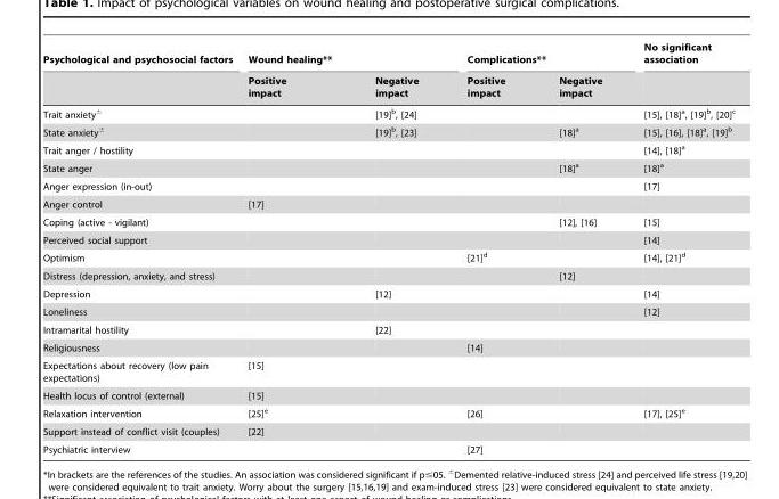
<table><thead><tr><td rowspan="2">Psychological and psychosocial factors</td><td colspan="2">Wound healing**</td><td colspan="2">Complications**</td><td rowspan="2">No significant association</td></tr><tr><td>Positive impact</td><td>Negative impact</td><td>Positive impact</td><td>Negative impact</td></tr></thead><tbody><tr><td>Trait anxiety<sup>±</sup></td><td></td><td>[19]b, [24]</td><td></td><td></td><td>[15], [18]a, [19]b, [20]c</td></tr><tr><td>State anxiety<sup>±</sup></td><td></td><td>[19]b, [23]</td><td></td><td>[18]a</td><td>[15], [16], [18]a, [19]b</td></tr><tr><td>Trait anger / hostility</td><td></td><td></td><td></td><td></td><td>[14], [18]a</td></tr><tr><td>State anger</td><td></td><td></td><td></td><td>[18]a</td><td>[18]a</td></tr><tr><td>Anger expression (in-out)</td><td></td><td></td><td></td><td></td><td>[17]</td></tr><tr><td>Anger control</td><td>[17]</td><td></td><td></td><td></td><td></td></tr><tr><td>Coping (active - vigilant)</td><td></td><td></td><td></td><td>[12], [16]</td><td>[15]</td></tr><tr><td>Perceived social support</td><td></td><td></td><td></td><td></td><td>[14]</td></tr><tr><td>Optimism</td><td></td><td></td><td>[21]d</td><td></td><td>[14], [21]d</td></tr><tr><td>Distress (depression, anxiety, and stress)</td><td></td><td></td><td></td><td>[12]</td><td></td></tr><tr><td>Depression</td><td></td><td>[12]</td><td></td><td></td><td>[14]</td></tr><tr><td>Loneliness</td><td></td><td></td><td></td><td></td><td>[12]</td></tr><tr><td>Intramarital hostility</td><td></td><td>[22]</td><td></td><td></td><td></td></tr><tr><td>Religiousness</td><td></td><td></td><td>[14]</td><td></td><td></td></tr><tr><td>Expectations about recovery (low pain expectations)</td><td>[15]</td><td></td><td></td><td></td><td></td></tr><tr><td>Health locus of control (external)</td><td>[15]</td><td></td><td></td><td></td><td></td></tr><tr><td>Relaxation intervention</td><td>[25]e</td><td></td><td>[26]</td><td></td><td>[17], [25]e</td></tr><tr><td>Support instead of conflict visit (couples)</td><td>[22]</td><td></td><td></td><td></td><td></td></tr><tr><td>Psychiatric interview</td><td></td><td></td><td>[27]</td><td></td><td></td></tr></tbody></table>